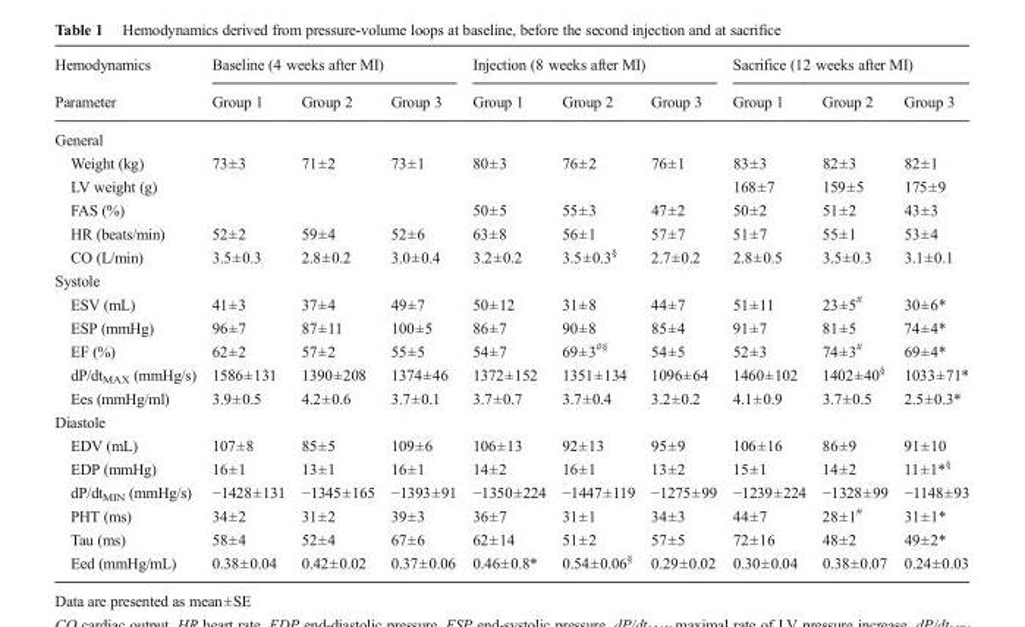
<table><thead><tr><td rowspan="2">Hemodynamics Parameter</td><td colspan="3">Baseline (4 weeks after MI)</td><td colspan="3">Injection (8 weeks after MI)</td><td colspan="3">Sacrifice (12 weeks after MI)</td></tr><tr><td>Group 1</td><td>Group 2</td><td>Group 3</td><td>Group 1</td><td>Group 2</td><td>Group 3</td><td>Group 1</td><td>Group 2</td><td>Group 3</td></tr></thead><tbody><tr><td colspan="10">General</td></tr><tr><td>Weight (kg)</td><td>73±3</td><td>71±2</td><td>73±1</td><td>80±3</td><td>76±2</td><td>76±1</td><td>83±3</td><td>82±3</td><td>82±1</td></tr><tr><td>LV weight (g)</td><td></td><td></td><td></td><td></td><td></td><td></td><td>168±7</td><td>159±5</td><td>175±9</td></tr><tr><td>FAS (%)</td><td></td><td></td><td></td><td>50±5</td><td>55±3</td><td>47±2</td><td>50±2</td><td>51±2</td><td>43±3</td></tr><tr><td>HR (beats/min)</td><td>52±2</td><td>59±4</td><td>52±6</td><td>63±8</td><td>56±1</td><td>57±7</td><td>51±7</td><td>55±1</td><td>53±4</td></tr><tr><td>CO (L/min)</td><td>3.5±0.3</td><td>2.8±0.2</td><td>3.0±0.4</td><td>3.2±0.2</td><td>3.5±0.3<sup>§</sup></td><td>2.7±0.2</td><td>2.8±0.5</td><td>3.5±0.3</td><td>3.1±0.1</td></tr><tr><td colspan="10">Systole</td></tr><tr><td>ESV (mL)</td><td>41±3</td><td>37±4</td><td>49±7</td><td>50±12</td><td>31±8</td><td>44±7</td><td>51±11</td><td>23±5<sup>#</sup></td><td>30±6*</td></tr><tr><td>ESP (mmHg)</td><td>96±7</td><td>87±11</td><td>100±5</td><td>86±7</td><td>90±8</td><td>85±4</td><td>91±7</td><td>81±5</td><td>74±4*</td></tr><tr><td>EF (%)</td><td>62±2</td><td>57±2</td><td>55±5</td><td>54±7</td><td>69±3<sup>#§</sup></td><td>54±5</td><td>52±3</td><td>74±3<sup>#</sup></td><td>69±4*</td></tr><tr><td>dP/dt<sub>MAX</sub> (mmHg/s)</td><td>1586±131</td><td>1390±208</td><td>1374±46</td><td>1372±152</td><td>1351±134</td><td>1096±64</td><td>1460±102</td><td>1402±40<sup>§</sup></td><td>1033±71*</td></tr><tr><td>Ees (mmHg/ml)</td><td>3.9±0.5</td><td>4.2±0.6</td><td>3.7±0.1</td><td>3.7±0.7</td><td>3.7±0.4</td><td>3.2±0.2</td><td>4.1±0.9</td><td>3.7±0.5</td><td>2.5±0.3*</td></tr><tr><td colspan="10">Diastole</td></tr><tr><td>EDV (mL)</td><td>107±8</td><td>85±5</td><td>109±6</td><td>106±13</td><td>92±13</td><td>95±9</td><td>106±16</td><td>86±9</td><td>91±10</td></tr><tr><td>EDP (mmHg)</td><td>16±1</td><td>13±1</td><td>16±1</td><td>14±2</td><td>16±1</td><td>13±2</td><td>15±1</td><td>14±2</td><td>11±1*<sup>§</sup></td></tr><tr><td>dP/dt<sub>MIN</sub> (mmHg/s)</td><td>−1428±131</td><td>−1345±165</td><td>−1393±91</td><td>−1350±224</td><td>−1447±119</td><td>−1275±99</td><td>−1239±224</td><td>−1328±99</td><td>−1148±93</td></tr><tr><td>PHT (ms)</td><td>34±2</td><td>31±2</td><td>39±3</td><td>36±7</td><td>31±1</td><td>34±3</td><td>44±7</td><td>28±1<sup>#</sup></td><td>31±1*</td></tr><tr><td>Tau (ms)</td><td>58±4</td><td>52±4</td><td>67±6</td><td>62±14</td><td>51±2</td><td>57±5</td><td>72±16</td><td>48±2</td><td>49±2*</td></tr><tr><td>Eed (mmHg/mL)</td><td>0.38±0.04</td><td>0.42±0.02</td><td>0.37±0.06</td><td>0.46±0.8*</td><td>0.54±0.06<sup>§</sup></td><td>0.29±0.02</td><td>0.30±0.04</td><td>0.38±0.07</td><td>0.24±0.03</td></tr></tbody></table>